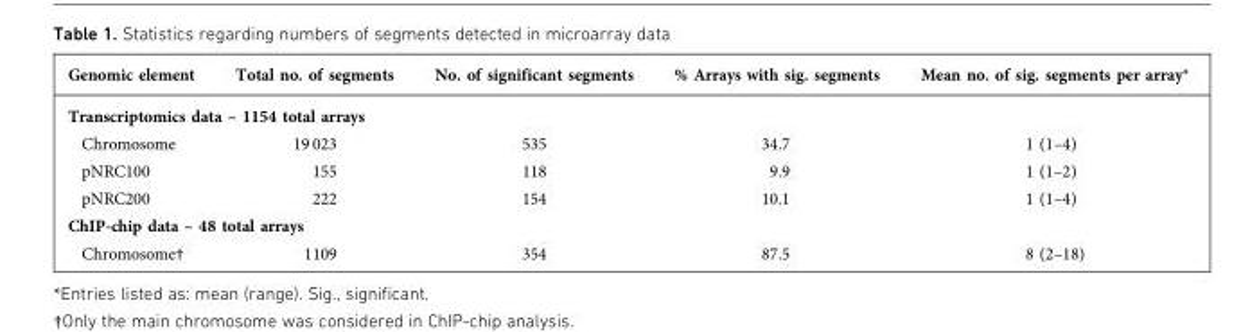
<table><thead><tr><td>Genomic element</td><td>Total no. of segments</td><td>No. of significant segments</td><td>% Arrays with sig. segments</td><td>Mean no. of sig. segments per array*</td></tr></thead><tbody><tr><td colspan="5">Transcriptomics data – 1154 total arrays</td></tr><tr><td>Chromosome</td><td>19 023</td><td>535</td><td>34.7</td><td>1 (1–4)</td></tr><tr><td>pNRC100</td><td>155</td><td>118</td><td>9.9</td><td>1 (1–2)</td></tr><tr><td>pNRC200</td><td>222</td><td>154</td><td>10.1</td><td>1 (1–4)</td></tr><tr><td colspan="5">ChIP-chip data – 48 total arrays</td></tr><tr><td>Chromosome†</td><td>1109</td><td>354</td><td>87.5</td><td>8 (2–18)</td></tr></tbody></table>